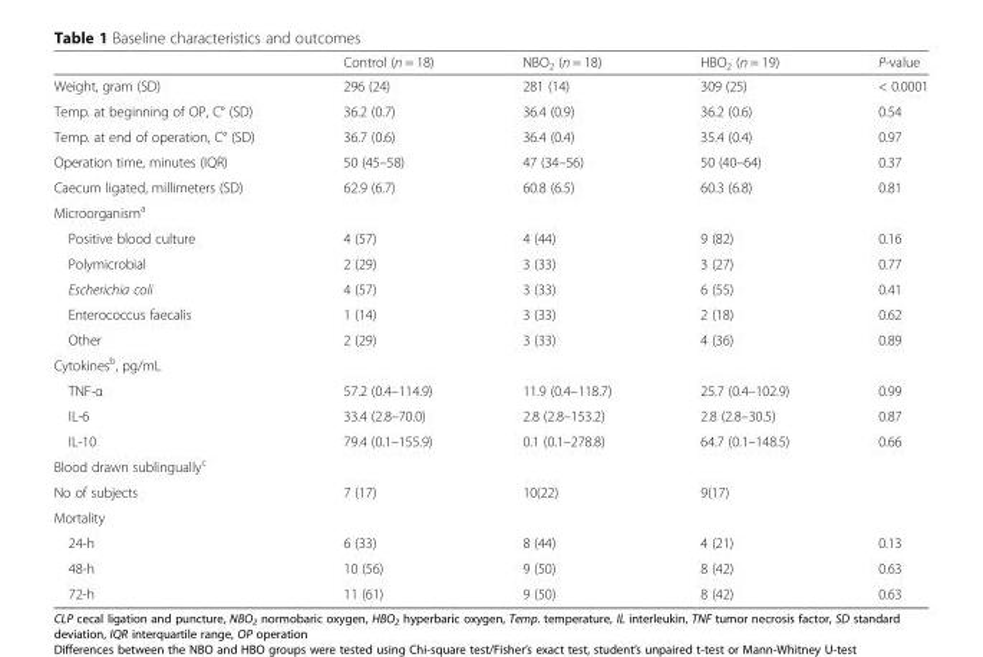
<table><thead><tr><td></td><td>Control (n = 18)</td><td>NBO<sub>2</sub> (n = 18)</td><td>HBO<sub>2</sub> (n = 19)</td><td>P-value</td></tr></thead><tbody><tr><td>Weight, gram (SD)</td><td>296 (24)</td><td>281 (14)</td><td>309 (25)</td><td>&lt; 0.0001</td></tr><tr><td>Temp. at beginning of OP, C° (SD)</td><td>36.2 (0.7)</td><td>36.4 (0.9)</td><td>36.2 (0.6)</td><td>0.54</td></tr><tr><td>Temp. at end of operation, C° (SD)</td><td>36.7 (0.6)</td><td>36.4 (0.4)</td><td>35.4 (0.4)</td><td>0.97</td></tr><tr><td>Operation time, minutes (IQR)</td><td>50 (45–58)</td><td>47 (34–56)</td><td>50 (40–64)</td><td>0.37</td></tr><tr><td>Caecum ligated, millimeters (SD)</td><td>62.9 (6.7)</td><td>60.8 (6.5)</td><td>60.3 (6.8)</td><td>0.81</td></tr><tr><td colspan="5">Microorganism<sup>a</sup></td></tr><tr><td>Positive blood culture</td><td>4 (57)</td><td>4 (44)</td><td>9 (82)</td><td>0.16</td></tr><tr><td>Polymicrobial</td><td>2 (29)</td><td>3 (33)</td><td>3 (27)</td><td>0.77</td></tr><tr><td>Escherichia coli</td><td>4 (57)</td><td>3 (33)</td><td>6 (55)</td><td>0.41</td></tr><tr><td>Enterococcus faecalis</td><td>1 (14)</td><td>3 (33)</td><td>2 (18)</td><td>0.62</td></tr><tr><td>Other</td><td>2 (29)</td><td>3 (33)</td><td>4 (36)</td><td>0.89</td></tr><tr><td colspan="5">Cytokines<sup>b</sup>, pg/mL</td></tr><tr><td>TNF-α</td><td>57.2 (0.4–114.9)</td><td>11.9 (0.4–118.7)</td><td>25.7 (0.4–102.9)</td><td>0.99</td></tr><tr><td>IL-6</td><td>33.4 (2.8–70.0)</td><td>2.8 (2.8–153.2)</td><td>2.8 (2.8–30.5)</td><td>0.87</td></tr><tr><td>IL-10</td><td>79.4 (0.1–155.9)</td><td>0.1 (0.1–278.8)</td><td>64.7 (0.1–148.5)</td><td>0.66</td></tr><tr><td colspan="5">Blood drawn sublingually<sup>c</sup></td></tr><tr><td>No of subjects</td><td>7 (17)</td><td>10(22)</td><td>9(17)</td><td></td></tr><tr><td colspan="5">Mortality</td></tr><tr><td>24-h</td><td>6 (33)</td><td>8 (44)</td><td>4 (21)</td><td>0.13</td></tr><tr><td>48-h</td><td>10 (56)</td><td>9 (50)</td><td>8 (42)</td><td>0.63</td></tr><tr><td>72-h</td><td>11 (61)</td><td>9 (50)</td><td>8 (42)</td><td>0.63</td></tr></tbody></table>